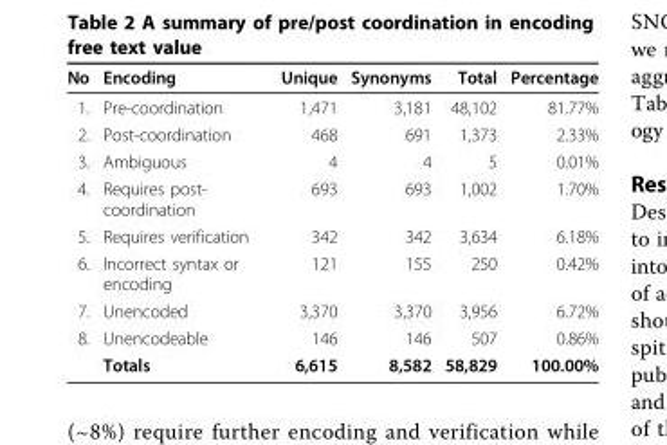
<table><thead><tr><td>No</td><td>Encoding</td><td>Unique</td><td>Synonyms</td><td>Total</td><td>Percentage</td></tr></thead><tbody><tr><td>1.</td><td>Pre-coordination</td><td>1,471</td><td>3,181</td><td>48,102</td><td>81.77%</td></tr><tr><td>2.</td><td>Post-coordination</td><td>468</td><td>691</td><td>1,373</td><td>2.33%</td></tr><tr><td>3.</td><td>Ambiguous</td><td>4</td><td>4</td><td>5</td><td>0.01%</td></tr><tr><td>4.</td><td>Requires post- coordination</td><td>693</td><td>693</td><td>1,002</td><td>1.70%</td></tr><tr><td>5.</td><td>Requires verification</td><td>342</td><td>342</td><td>3,634</td><td>6.18%</td></tr><tr><td>6.</td><td>Incorrect syntax or encoding</td><td>121</td><td>155</td><td>250</td><td>0.42%</td></tr><tr><td>7.</td><td>Unencoded</td><td>3,370</td><td>3,370</td><td>3,956</td><td>6.72%</td></tr><tr><td rowspan="2">8.</td><td>Unencodeable</td><td>146</td><td>146</td><td>507</td><td>0.86%</td></tr><tr><td>Totals</td><td>6,615</td><td>8,582</td><td>58,829</td><td>100.00%</td></tr></tbody></table>